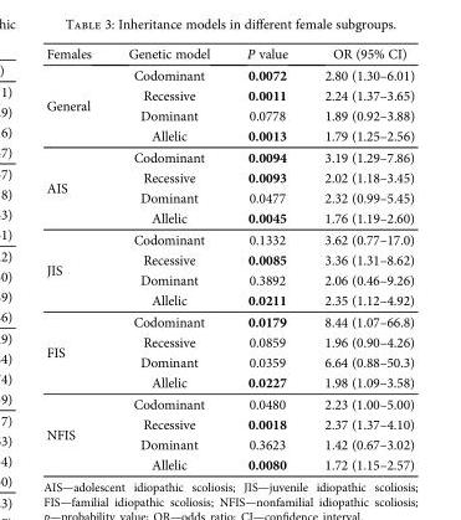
<table><thead><tr><td>Females</td><td>Genetic model</td><td>P value</td><td>OR (95% CI)</td></tr></thead><tbody><tr><td rowspan="4">General</td><td>Codominant</td><td>0.0072</td><td>2.80 (1.30–6.01)</td></tr><tr><td>Recessive</td><td>0.0011</td><td>2.24 (1.37–3.65)</td></tr><tr><td>Dominant</td><td>0.0778</td><td>1.89 (0.92–3.88)</td></tr><tr><td>Allelic</td><td>0.0013</td><td>1.79 (1.25–2.56)</td></tr><tr><td rowspan="4">AIS</td><td>Codominant</td><td>0.0094</td><td>3.19 (1.29–7.86)</td></tr><tr><td>Recessive</td><td>0.0093</td><td>2.02 (1.18–3.45)</td></tr><tr><td>Dominant</td><td>0.0477</td><td>2.32 (0.99–5.45)</td></tr><tr><td>Allelic</td><td>0.0045</td><td>1.76 (1.19–2.60)</td></tr><tr><td rowspan="4">JIS</td><td>Codominant</td><td>0.1332</td><td>3.62 (0.77–17.0)</td></tr><tr><td>Recessive</td><td>0.0085</td><td>3.36 (1.31–8.62)</td></tr><tr><td>Dominant</td><td>0.3892</td><td>2.06 (0.46–9.26)</td></tr><tr><td>Allelic</td><td>0.0211</td><td>2.35 (1.12–4.92)</td></tr><tr><td rowspan="4">FIS</td><td>Codominant</td><td>0.0179</td><td>8.44 (1.07–66.8)</td></tr><tr><td>Recessive</td><td>0.0859</td><td>1.96 (0.90–4.26)</td></tr><tr><td>Dominant</td><td>0.0359</td><td>6.64 (0.88–50.3)</td></tr><tr><td>Allelic</td><td>0.0227</td><td>1.98 (1.09–3.58)</td></tr><tr><td rowspan="4">NFIS</td><td>Codominant</td><td>0.0480</td><td>2.23 (1.00–5.00)</td></tr><tr><td>Recessive</td><td>0.0018</td><td>2.37 (1.37–4.10)</td></tr><tr><td>Dominant</td><td>0.3623</td><td>1.42 (0.67–3.02)</td></tr><tr><td>Allelic</td><td>0.0080</td><td>1.72 (1.15–2.57)</td></tr></tbody></table>